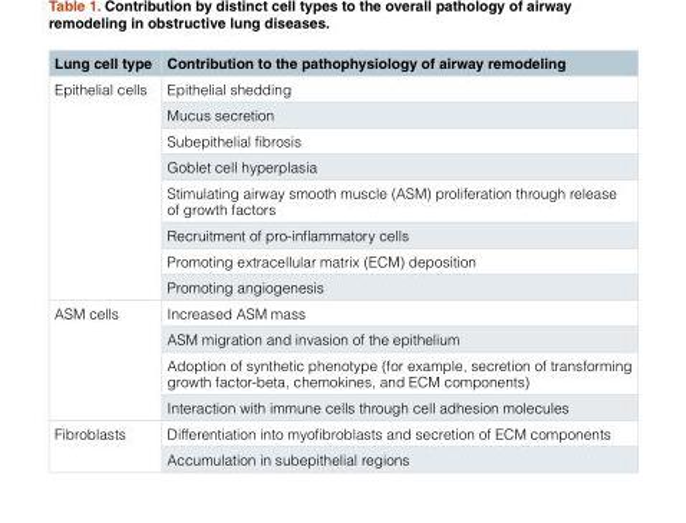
<table><thead><tr><td>Lung cell type</td><td>Contribution to the pathophysiology of airway remodeling</td></tr></thead><tbody><tr><td rowspan="8">Epithelial cells</td><td>Epithelial shedding</td></tr><tr><td>Mucus secretion</td></tr><tr><td>Subepithelial fibrosis</td></tr><tr><td>Goblet cell hyperplasia</td></tr><tr><td>Stimulating airway smooth muscle (ASM) proliferation through release of growth factors</td></tr><tr><td>Recruitment of pro-inflammatory cells</td></tr><tr><td>Promoting extracellular matrix (ECM) deposition</td></tr><tr><td>Promoting angiogenesis</td></tr><tr><td rowspan="4">ASM cells</td><td>Increased ASM mass</td></tr><tr><td>ASM migration and invasion of the epithelium</td></tr><tr><td>Adoption of synthetic phenotype (for example, secretion of transforming growth factor-beta, chemokines, and ECM components)</td></tr><tr><td>Interaction with immune cells through cell adhesion molecules</td></tr><tr><td rowspan="2">Fibroblasts</td><td>Differentiation into myofibroblasts and secretion of ECM components</td></tr><tr><td>Accumulation in subepithelial regions</td></tr></tbody></table>